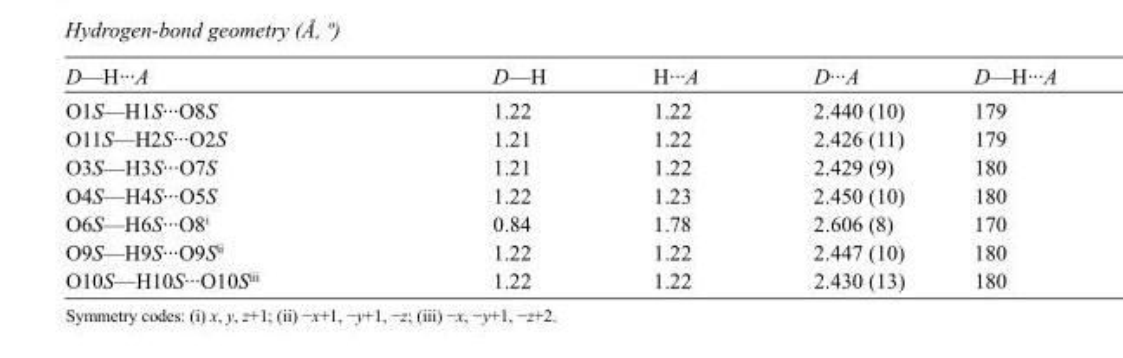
<table><tbody><tr><td>D—H···A</td><td>D—H</td><td>H···A</td><td>D···A</td><td>D—H···A</td></tr><tr><td>O1S—H1S···O8S</td><td>1.22</td><td>1.22</td><td>2.440 (10)</td><td>179</td></tr><tr><td>O11S—H2S···O2S</td><td>1.21</td><td>1.22</td><td>2.426 (11)</td><td>179</td></tr><tr><td>O3S—H3S···O7S</td><td>1.21</td><td>1.22</td><td>2.429 (9)</td><td>180</td></tr><tr><td>O4S—H4S···O5S</td><td>1.22</td><td>1.23</td><td>2.450 (10)</td><td>180</td></tr><tr><td>O6S—H6S···O8<sup>i</sup></td><td>0.84</td><td>1.78</td><td>2.606 (8)</td><td>170</td></tr><tr><td>O9S—H9S···O9S<sup>ii</sup></td><td>1.22</td><td>1.22</td><td>2.447 (10)</td><td>180</td></tr><tr><td>O10S—H10S···O10S<sup>iii</sup></td><td>1.22</td><td>1.22</td><td>2.430 (13)</td><td>180</td></tr></tbody></table>